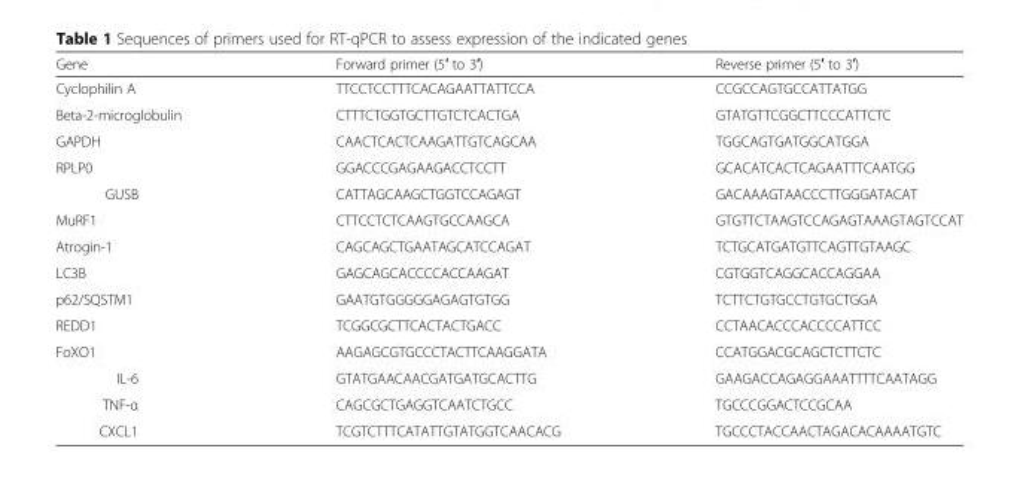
<table><thead><tr><td>Gene</td><td>Forward primer (5′ to 3′)</td><td>Reverse primer (5′ to 3′)</td></tr></thead><tbody><tr><td>Cyclophilin A</td><td>TTCCTCCTTTCACAGAATTATTCCA</td><td>CCGCCAGTGCCATTATGG</td></tr><tr><td>Beta-2-microglobulin</td><td>CTTTCTGGTGCTTGTCTCACTGA</td><td>GTATGTTCGGCTTCCCATTCTC</td></tr><tr><td>GAPDH</td><td>CAACTCACTCAAGATTGTCAGCAA</td><td>TGGCAGTGATGGCATGGA</td></tr><tr><td>RPLP0</td><td>GGACCCGAGAAGACCTCCTT</td><td>GCACATCACTCAGAATTTCAATGG</td></tr><tr><td>GUSB</td><td>CATTAGCAAGCTGGTCCAGAGT</td><td>GACAAAGTAACCCTTGGGATACAT</td></tr><tr><td>MuRF1</td><td>CTTCCTCTCAAGTGCCAAGCA</td><td>GTGTTCTAAGTCCAGAGTAAAGTAGTCCAT</td></tr><tr><td>Atrogin-1</td><td>CAGCAGCTGAATAGCATCCAGAT</td><td>TCTGCATGATGTTCAGTTGTAAGC</td></tr><tr><td>LC3B</td><td>GAGCAGCACCCCACCAAGAT</td><td>CGTGGTCAGGCACCAGGAA</td></tr><tr><td>p62/SQSTM1</td><td>GAATGTGGGGGAGAGTGTGG</td><td>TCTTCTGTGCCTGTGCTGGA</td></tr><tr><td>REDD1</td><td>TCGGCGCTTCACTACTGACC</td><td>CCTAACACCCACCCCATTCC</td></tr><tr><td>FoXO1</td><td>AAGAGCGTGCCCTACTTCAAGGATA</td><td>CCATGGACGCAGCTCTTCTC</td></tr><tr><td>IL-6</td><td>GTATGAACAACGATGATGCACTTG</td><td>GAAGACCAGAGGAAATTTTCAATAGG</td></tr><tr><td>TNF-α</td><td>CAGCGCTGAGGTCAATCTGCC</td><td>TGCCCGGACTCCGCAA</td></tr><tr><td>CXCL1</td><td>TCGTCTTTCATATTGTATGGTCAACACG</td><td>TGCCCTACCAACTAGACACAAAATGTC</td></tr></tbody></table>